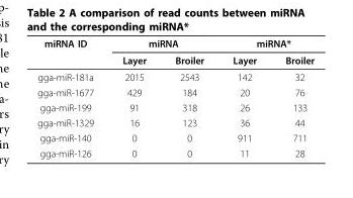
<table><thead><tr><td rowspan="2">miRNA ID</td><td colspan="2">miRNA</td><td colspan="2">miRNA*</td></tr><tr><td>Layer</td><td>Broiler</td><td>Layer</td><td>Broiler</td></tr></thead><tbody><tr><td>gga-miR-181a</td><td>2015</td><td>2543</td><td>142</td><td>32</td></tr><tr><td>gga-miR-1677</td><td>429</td><td>184</td><td>20</td><td>76</td></tr><tr><td>gga-miR-199</td><td>91</td><td>318</td><td>26</td><td>133</td></tr><tr><td>gga-miR-1329</td><td>16</td><td>123</td><td>36</td><td>44</td></tr><tr><td>gga-miR-140</td><td>0</td><td>0</td><td>911</td><td>711</td></tr><tr><td>gga-miR-126</td><td>0</td><td>0</td><td>11</td><td>28</td></tr></tbody></table>